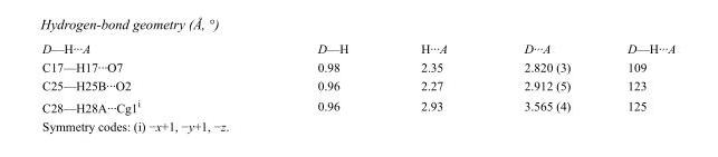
<table><tbody><tr><td>D—H···A</td><td>D—H</td><td>H···A</td><td>D···A</td><td>D—H···A</td></tr><tr><td>C17—H17···O7</td><td>0.98</td><td>2.35</td><td>2.820 (3)</td><td>109</td></tr><tr><td>C25—H25B···O2</td><td>0.96</td><td>2.27</td><td>2.912 (5)</td><td>123</td></tr><tr><td>C28—H28A···Cg1<sup>i</sup></td><td>0.96</td><td>2.93</td><td>3.565 (4)</td><td>125</td></tr></tbody></table>